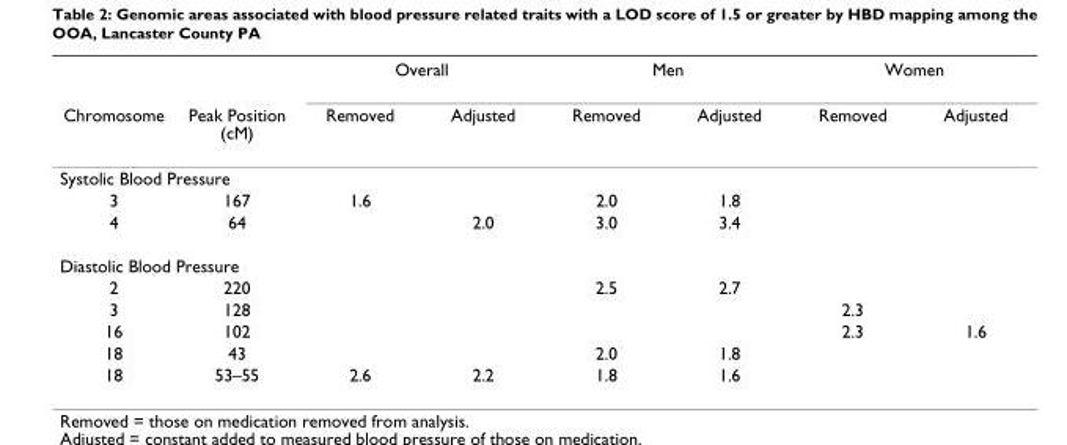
<table><thead><tr><td rowspan="2">Chromosome</td><td rowspan="2">Peak Position (cM)</td><td colspan="2">Overall</td><td colspan="2">Men</td><td colspan="2">Women</td></tr><tr><td>Removed</td><td>Adjusted</td><td>Removed</td><td>Adjusted</td><td>Removed</td><td>Adjusted</td></tr></thead><tbody><tr><td colspan="8">Systolic Blood Pressure</td></tr><tr><td>3</td><td>167</td><td>1.6</td><td></td><td>2.0</td><td>1.8</td><td></td><td></td></tr><tr><td>4</td><td>64</td><td></td><td>2.0</td><td>3.0</td><td>3.4</td><td></td><td></td></tr><tr><td colspan="8">Diastolic Blood Pressure</td></tr><tr><td>2</td><td>220</td><td></td><td></td><td>2.5</td><td>2.7</td><td></td><td></td></tr><tr><td>3</td><td>128</td><td></td><td></td><td></td><td></td><td>2.3</td><td></td></tr><tr><td>16</td><td>102</td><td></td><td></td><td></td><td></td><td>2.3</td><td>1.6</td></tr><tr><td>18</td><td>43</td><td></td><td></td><td>2.0</td><td>1.8</td><td></td><td></td></tr><tr><td>18</td><td>53–55</td><td>2.6</td><td>2.2</td><td>1.8</td><td>1.6</td><td></td><td></td></tr></tbody></table>